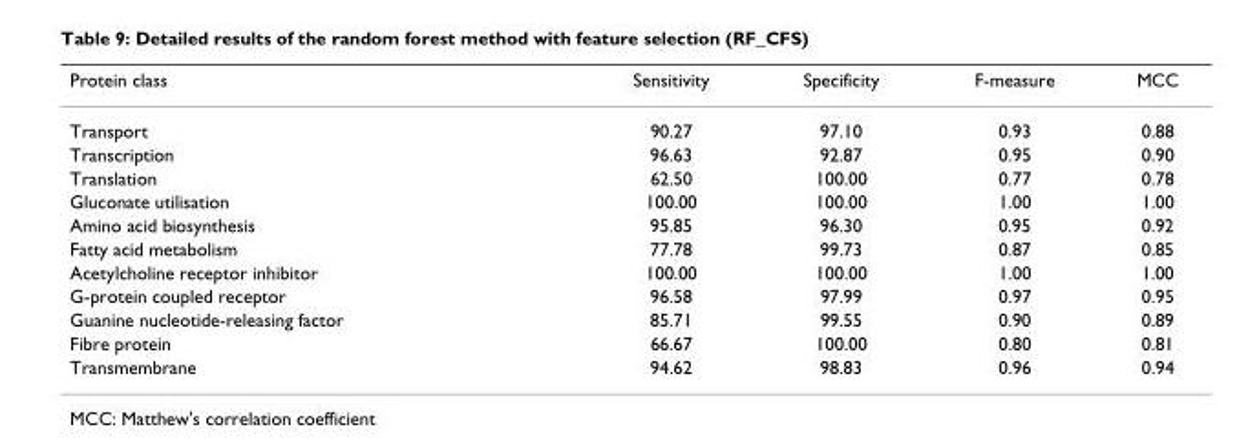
<table><thead><tr><td>Protein class</td><td>Sensitivity</td><td>Specificity</td><td>F-measure</td><td>MCC</td></tr></thead><tbody><tr><td>Transport</td><td>90.27</td><td>97.10</td><td>0.93</td><td>0.88</td></tr><tr><td>Transcription</td><td>96.63</td><td>92.87</td><td>0.95</td><td>0.90</td></tr><tr><td>Translation</td><td>62.50</td><td>100.00</td><td>0.77</td><td>0.78</td></tr><tr><td>Gluconate utilisation</td><td>100.00</td><td>100.00</td><td>1.00</td><td>1.00</td></tr><tr><td>Amino acid biosynthesis</td><td>95.85</td><td>96.30</td><td>0.95</td><td>0.92</td></tr><tr><td>Fatty acid metabolism</td><td>77.78</td><td>99.73</td><td>0.87</td><td>0.85</td></tr><tr><td>Acetylcholine receptor inhibitor</td><td>100.00</td><td>100.00</td><td>1.00</td><td>1.00</td></tr><tr><td>G-protein coupled receptor</td><td>96.58</td><td>97.99</td><td>0.97</td><td>0.95</td></tr><tr><td>Guanine nucleotide-releasing factor</td><td>85.71</td><td>99.55</td><td>0.90</td><td>0.89</td></tr><tr><td>Fibre protein</td><td>66.67</td><td>100.00</td><td>0.80</td><td>0.81</td></tr><tr><td>Transmembrane</td><td>94.62</td><td>98.83</td><td>0.96</td><td>0.94</td></tr></tbody></table>